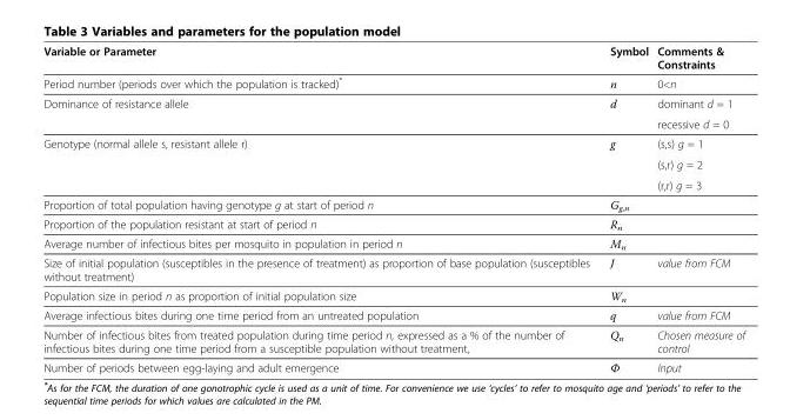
<table><thead><tr><td>Variable or Parameter</td><td>Symbol</td><td>Comments &amp; Constraints</td></tr></thead><tbody><tr><td>Period number (periods over which the population is tracked)*</td><td>n</td><td>0&lt;n</td></tr><tr><td rowspan="2">Dominance of resistance allele</td><td>d</td><td>dominant d = 1</td></tr><tr><td></td><td>recessive d = 0</td></tr><tr><td rowspan="3">Genotype (normal allele s, resistant allele r)</td><td>g</td><td>(s,s) g = 1</td></tr><tr><td></td><td>(s,r) g = 2</td></tr><tr><td></td><td>(r,r) g = 3</td></tr><tr><td>Proportion of total population having genotype g at start of period n</td><td>G<sub>g,n</sub></td><td></td></tr><tr><td>Proportion of the population resistant at start of period n</td><td>R<sub>n</sub></td><td></td></tr><tr><td>Average number of infectious bites per mosquito in population in period n</td><td>M<sub>n</sub></td><td></td></tr><tr><td>Size of initial population (susceptibles in the presence of treatment) as proportion of base population (susceptibles without treatment)</td><td>J</td><td>value from FCM</td></tr><tr><td>Population size in period n as proportion of initial population size</td><td>W<sub>n</sub></td><td></td></tr><tr><td>Average infectious bites during one time period from an untreated population</td><td>q</td><td>value from FCM</td></tr><tr><td>Number of infectious bites from treated population during time period n, expressed as a % of the number of infectious bites during one time period from a susceptible population without treatment,</td><td>Q<sub>n</sub></td><td>Chosen measure of control</td></tr><tr><td>Number of periods between egg-laying and adult emergence</td><td>Φ</td><td>Input</td></tr></tbody></table>